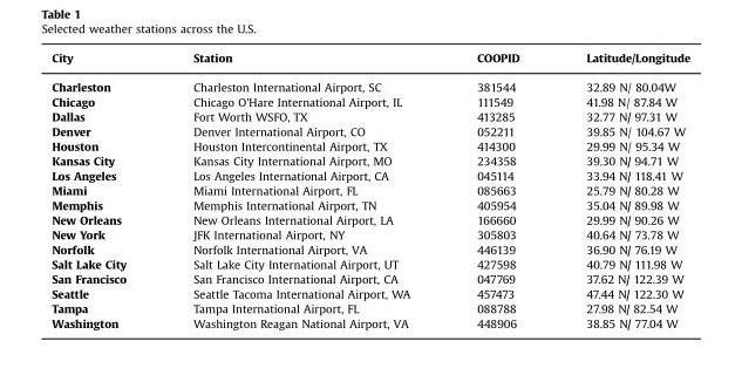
<table><thead><tr><td>City</td><td>Station</td><td>COOPID</td><td>Latitude/Longitude</td></tr></thead><tbody><tr><td>Charleston</td><td>Charleston International Airport, SC</td><td>381544</td><td>32.89 N/ 80.04W</td></tr><tr><td>Chicago</td><td>Chicago O’Hare International Airport, IL</td><td>111549</td><td>41.98 N/ 87.84 W</td></tr><tr><td>Dallas</td><td>Fort Worth WSFO, TX</td><td>413285</td><td>32.77 N/ 97.31 W</td></tr><tr><td>Denver</td><td>Denver International Airport, CO</td><td>052211</td><td>39.85 N/ 104.67 W</td></tr><tr><td>Houston</td><td>Houston Intercontinental Airport, TX</td><td>414300</td><td>29.99 N/ 95.34 W</td></tr><tr><td>Kansas City</td><td>Kansas City International Airport, MO</td><td>234358</td><td>39.30 N/ 94.71 W</td></tr><tr><td>Los Angeles</td><td>Los Angeles International Airport, CA</td><td>045114</td><td>33.94 N/ 118.41 W</td></tr><tr><td>Miami</td><td>Miami International Airport, FL</td><td>085663</td><td>25.79 N/ 80.28 W</td></tr><tr><td>Memphis</td><td>Memphis International Airport, TN</td><td>405954</td><td>35.04 N/ 89.98 W</td></tr><tr><td>New Orleans</td><td>New Orleans International Airport, LA</td><td>166660</td><td>29.99 N/ 90.26 W</td></tr><tr><td>New York</td><td>JFK International Airport, NY</td><td>305803</td><td>40.64 N/ 73.78 W</td></tr><tr><td>Norfolk</td><td>Norfolk International Airport, VA</td><td>446139</td><td>36.90 N/ 76.19 W</td></tr><tr><td>Salt Lake City</td><td>Salt Lake City International Airport, UT</td><td>427598</td><td>40.79 N/ 111.98 W</td></tr><tr><td>San Francisco</td><td>San Francisco International Airport, CA</td><td>047769</td><td>37.62 N/ 122.39 W</td></tr><tr><td>Seattle</td><td>Seattle Tacoma International Airport, WA</td><td>457473</td><td>47.44 N/ 122.30 W</td></tr><tr><td>Tampa</td><td>Tampa International Airport, FL</td><td>088788</td><td>27.98 N/ 82.54 W</td></tr><tr><td>Washington</td><td>Washington Reagan National Airport, VA</td><td>448906</td><td>38.85 N/ 77.04 W</td></tr></tbody></table>